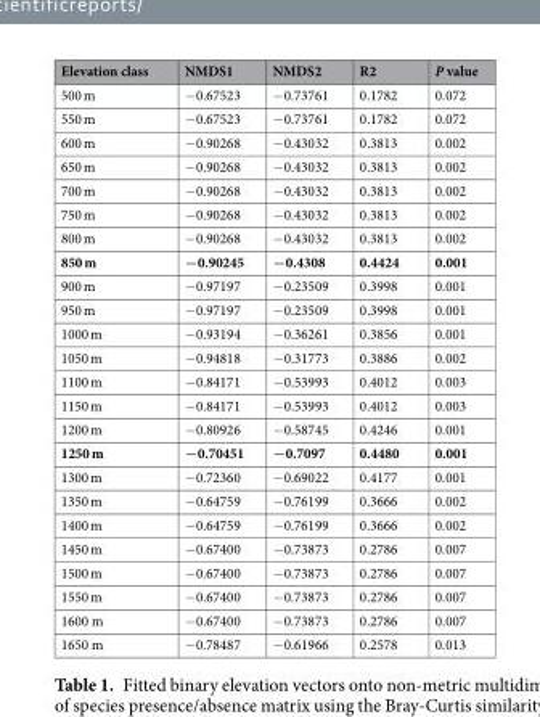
<table><thead><tr><td>Elevation class</td><td>NMDS1</td><td>NMDS2</td><td>R2</td><td>P value</td></tr></thead><tbody><tr><td>500 m</td><td>−0.67523</td><td>−0.73761</td><td>0.1782</td><td>0.072</td></tr><tr><td>550 m</td><td>−0.67523</td><td>−0.73761</td><td>0.1782</td><td>0.072</td></tr><tr><td>600 m</td><td>−0.90268</td><td>−0.43032</td><td>0.3813</td><td>0.002</td></tr><tr><td>650 m</td><td>−0.90268</td><td>−0.43032</td><td>0.3813</td><td>0.002</td></tr><tr><td>700 m</td><td>−0.90268</td><td>−0.43032</td><td>0.3813</td><td>0.002</td></tr><tr><td>750 m</td><td>−0.90268</td><td>−0.43032</td><td>0.3813</td><td>0.002</td></tr><tr><td>800 m</td><td>−0.90268</td><td>−0.43032</td><td>0.3813</td><td>0.002</td></tr><tr><td>850 m</td><td>−0.90245</td><td>−0.4308</td><td>0.4424</td><td>0.001</td></tr><tr><td>900 m</td><td>−0.97197</td><td>−0.23509</td><td>0.3998</td><td>0.001</td></tr><tr><td>950 m</td><td>−0.97197</td><td>−0.23509</td><td>0.3998</td><td>0.001</td></tr><tr><td>1000 m</td><td>−0.93194</td><td>−0.36261</td><td>0.3856</td><td>0.001</td></tr><tr><td>1050 m</td><td>−0.94818</td><td>−0.31773</td><td>0.3886</td><td>0.002</td></tr><tr><td>1100 m</td><td>−0.84171</td><td>−0.53993</td><td>0.4012</td><td>0.003</td></tr><tr><td>1150 m</td><td>−0.84171</td><td>−0.53993</td><td>0.4012</td><td>0.003</td></tr><tr><td>1200 m</td><td>−0.80926</td><td>−0.58745</td><td>0.4246</td><td>0.001</td></tr><tr><td>1250 m</td><td>−0.70451</td><td>−0.7097</td><td>0.4480</td><td>0.001</td></tr><tr><td>1300 m</td><td>−0.72360</td><td>−0.69022</td><td>0.4177</td><td>0.001</td></tr><tr><td>1350 m</td><td>−0.64759</td><td>−0.76199</td><td>0.3666</td><td>0.002</td></tr><tr><td>1400 m</td><td>−0.64759</td><td>−0.76199</td><td>0.3666</td><td>0.002</td></tr><tr><td>1450 m</td><td>−0.67400</td><td>−0.73873</td><td>0.2786</td><td>0.007</td></tr><tr><td>1500 m</td><td>−0.67400</td><td>−0.73873</td><td>0.2786</td><td>0.007</td></tr><tr><td>1550 m</td><td>−0.67400</td><td>−0.73873</td><td>0.2786</td><td>0.007</td></tr><tr><td>1600 m</td><td>−0.67400</td><td>−0.73873</td><td>0.2786</td><td>0.007</td></tr><tr><td>1650 m</td><td>−0.78487</td><td>−0.61966</td><td>0.2578</td><td>0.013</td></tr></tbody></table>